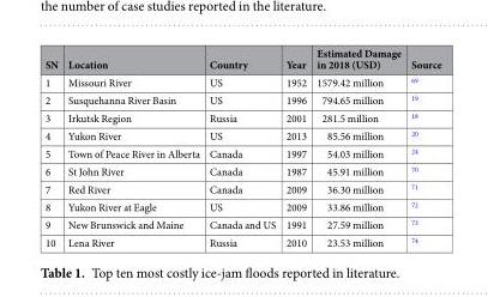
<table><thead><tr><td>SN</td><td>Location</td><td>Country</td><td>Year</td><td>Estimated Damage in 2018 (USD)</td><td>Source</td></tr></thead><tbody><tr><td>1</td><td>Missouri River</td><td>US</td><td>1952</td><td>1579.42 million</td><td><sup>69</sup></td></tr><tr><td>2</td><td>Susquehanna River Basin</td><td>US</td><td>1996</td><td>794.65 million</td><td><sup>19</sup></td></tr><tr><td>3</td><td>Irkutsk Region</td><td>Russia</td><td>2001</td><td>281.5 million</td><td><sup>18</sup></td></tr><tr><td>4</td><td>Yukon River</td><td>US</td><td>2013</td><td>85.56 million</td><td><sup>20</sup></td></tr><tr><td>5</td><td>Town of Peace River in Alberta</td><td>Canada</td><td>1997</td><td>54.03 million</td><td><sup>24</sup></td></tr><tr><td>6</td><td>St John River</td><td>Canada</td><td>1987</td><td>45.91 million</td><td><sup>70</sup></td></tr><tr><td>7</td><td>Red River</td><td>Canada</td><td>2009</td><td>36.30 million</td><td><sup>71</sup></td></tr><tr><td>8</td><td>Yukon River at Eagle</td><td>US</td><td>2009</td><td>33.86 million</td><td><sup>72</sup></td></tr><tr><td>9</td><td>New Brunswick and Maine</td><td>Canada and US</td><td>1991</td><td>27.59 million</td><td><sup>73</sup></td></tr><tr><td>10</td><td>Lena River</td><td>Russia</td><td>2010</td><td>23.53 million</td><td><sup>74</sup></td></tr></tbody></table>